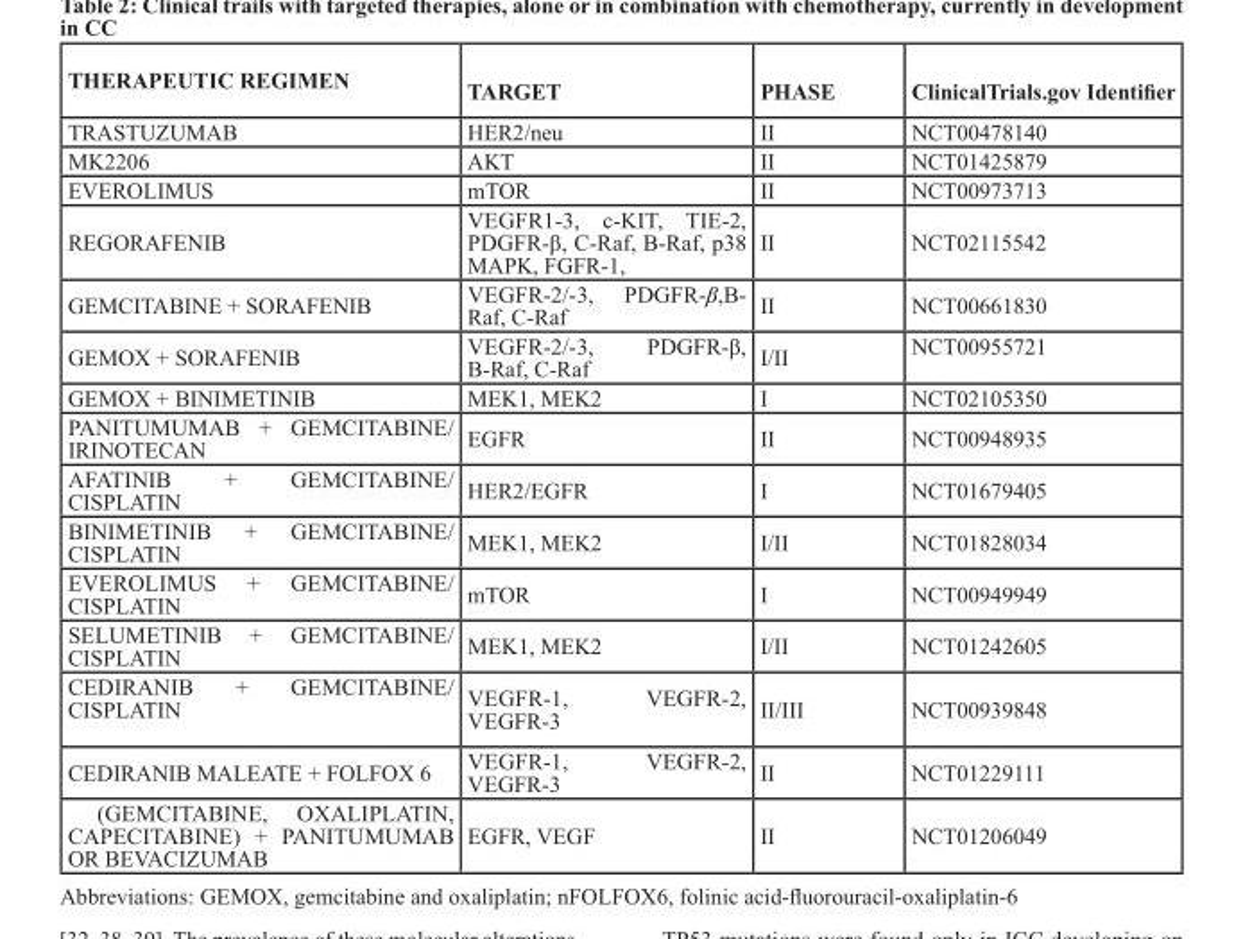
<table><thead><tr><td>THERAPEUTIC REGIMEN</td><td>TARGET</td><td>PHASE</td><td>ClinicalTrials.gov Identifier</td></tr></thead><tbody><tr><td>TRASTUZUMAB</td><td>HER2/neu</td><td>II</td><td>NCT00478140</td></tr><tr><td>MK2206</td><td>AKT</td><td>II</td><td>NCT01425879</td></tr><tr><td>EVEROLIMUS</td><td>mTOR</td><td>II</td><td>NCT00973713</td></tr><tr><td>REGORAFENIB</td><td>VEGFR1-3, c-KIT, TIE-2, PDGFR-β, C-Raf, B-Raf, p38 MAPK, FGFR-1,</td><td>II</td><td>NCT02115542</td></tr><tr><td>GEMCITABINE + SORAFENIB</td><td>VEGFR-2/-3, PDGFR-β,B- Raf, C-Raf</td><td>II</td><td>NCT00661830</td></tr><tr><td>GEMOX + SORAFENIB</td><td>VEGFR-2/-3, PDGFR-β, B-Raf, C-Raf</td><td>I/II</td><td>NCT00955721</td></tr><tr><td>GEMOX + BINIMETINIB</td><td>MEK1, MEK2</td><td>I</td><td>NCT02105350</td></tr><tr><td>PANITUMUMAB + GEMCITABINE/ IRINOTECAN</td><td>EGFR</td><td>II</td><td>NCT00948935</td></tr><tr><td>AFATINIB + GEMCITABINE/ CISPLATIN</td><td>HER2/EGFR</td><td>I</td><td>NCT01679405</td></tr><tr><td>BINIMETINIB + GEMCITABINE/ CISPLATIN</td><td>MEK1, MEK2</td><td>I/II</td><td>NCT01828034</td></tr><tr><td>EVEROLIMUS + GEMCITABINE/ CISPLATIN</td><td>mTOR</td><td>I</td><td>NCT00949949</td></tr><tr><td>SELUMETINIB + GEMCITABINE/ CISPLATIN</td><td>MEK1, MEK2</td><td>I/II</td><td>NCT01242605</td></tr><tr><td>CEDIRANIB + GEMCITABINE/ CISPLATIN</td><td>VEGFR-1, VEGFR-2, VEGFR-3</td><td>II/III</td><td>NCT00939848</td></tr><tr><td>CEDIRANIB MALEATE + FOLFOX 6</td><td>VEGFR-1, VEGFR-2, VEGFR-3</td><td>II</td><td>NCT01229111</td></tr><tr><td>(GEMCITABINE, OXALIPLATIN, CAPECITABINE) + PANITUMUMAB OR BEVACIZUMAB</td><td>EGFR, VEGF</td><td>II</td><td>NCT01206049</td></tr></tbody></table>